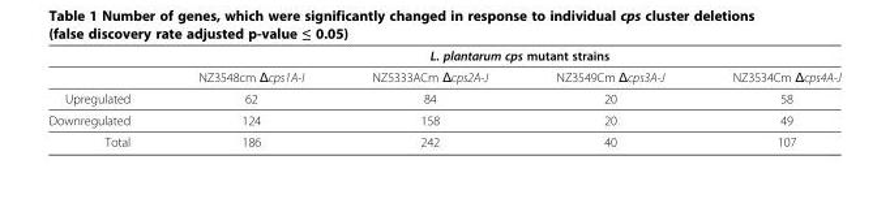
<table><thead><tr><td rowspan="2"></td><td colspan="4">L. plantarum cps mutant strains</td></tr><tr><td>NZ3548cm Δcps1A-I</td><td>NZ5333ACm Δcps2A-J</td><td>NZ3549Cm Δcps3A-J</td><td>NZ3534Cm Δcps4A-J</td></tr></thead><tbody><tr><td>Upregulated</td><td>62</td><td>84</td><td>20</td><td>58</td></tr><tr><td>Downregulated</td><td>124</td><td>158</td><td>20</td><td>49</td></tr><tr><td>Total</td><td>186</td><td>242</td><td>40</td><td>107</td></tr></tbody></table>